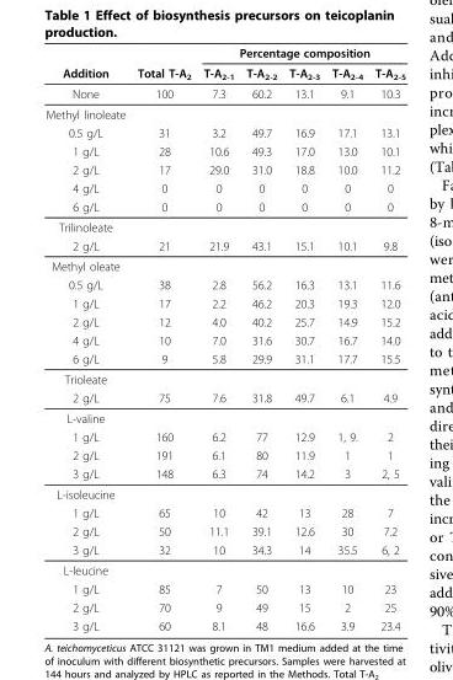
<table><thead><tr><td rowspan="2">Addition</td><td rowspan="2">Total T-A<sub>2</sub></td><td colspan="5">Percentage composition</td></tr><tr><td>T-A<sub>2-1</sub></td><td>T-A<sub>2-2</sub></td><td>T-A<sub>2-3</sub></td><td>T-A<sub>2-4</sub></td><td>T-A<sub>2-5</sub></td></tr></thead><tbody><tr><td>None</td><td>100</td><td>7.3</td><td>60.2</td><td>13.1</td><td>9.1</td><td>10.3</td></tr><tr><td colspan="7">Methyl linoleate</td></tr><tr><td>0.5 g/L</td><td>31</td><td>3.2</td><td>49.7</td><td>16.9</td><td>17.1</td><td>13.1</td></tr><tr><td>1 g/L</td><td>28</td><td>10.6</td><td>49.3</td><td>17.0</td><td>13.0</td><td>10.1</td></tr><tr><td>2 g/L</td><td>17</td><td>29.0</td><td>31.0</td><td>18.8</td><td>10.0</td><td>11.2</td></tr><tr><td>4 g/L</td><td>0</td><td>0</td><td>0</td><td>0</td><td>0</td><td>0</td></tr><tr><td>6 g/L</td><td>0</td><td>0</td><td>0</td><td>0</td><td>0</td><td>0</td></tr><tr><td colspan="7">Trilinoleate</td></tr><tr><td>2 g/L</td><td>21</td><td>21.9</td><td>43.1</td><td>15.1</td><td>10.1</td><td>9.8</td></tr><tr><td colspan="7">Methyl oleate</td></tr><tr><td>0.5 g/L</td><td>38</td><td>2.8</td><td>56.2</td><td>16.3</td><td>13.1</td><td>11.6</td></tr><tr><td>1 g/L</td><td>17</td><td>2.2</td><td>46.2</td><td>20.3</td><td>19.3</td><td>12.0</td></tr><tr><td>2 g/L</td><td>12</td><td>4.0</td><td>40.2</td><td>25.7</td><td>14.9</td><td>15.2</td></tr><tr><td>4 g/L</td><td>10</td><td>7.0</td><td>31.6</td><td>30.7</td><td>16.7</td><td>14.0</td></tr><tr><td>6 g/L</td><td>9</td><td>5.8</td><td>29.9</td><td>31.1</td><td>17.7</td><td>15.5</td></tr><tr><td colspan="7">Trioleate</td></tr><tr><td>2 g/L</td><td>75</td><td>7.6</td><td>31.8</td><td>49.7</td><td>6.1</td><td>4.9</td></tr><tr><td colspan="7">L-valine</td></tr><tr><td>1 g/L</td><td>160</td><td>6.2</td><td>77</td><td>12.9</td><td>1, 9.</td><td>2</td></tr><tr><td>2 g/L</td><td>191</td><td>6.1</td><td>80</td><td>11.9</td><td>1</td><td>1</td></tr><tr><td>3 g/L</td><td>148</td><td>6.3</td><td>74</td><td>14.2</td><td>3</td><td>2, 5</td></tr><tr><td colspan="7">L-isoleucine</td></tr><tr><td>1 g/L</td><td>65</td><td>10</td><td>42</td><td>13</td><td>28</td><td>7</td></tr><tr><td>2 g/L</td><td>50</td><td>11.1</td><td>39.1</td><td>12.6</td><td>30</td><td>7.2</td></tr><tr><td>3 g/L</td><td>32</td><td>10</td><td>34.3</td><td>14</td><td>35.5</td><td>6, 2</td></tr><tr><td colspan="7">L-leucine</td></tr><tr><td>1 g/L</td><td>85</td><td>7</td><td>50</td><td>13</td><td>10</td><td>23</td></tr><tr><td>2 g/L</td><td>70</td><td>9</td><td>49</td><td>15</td><td>2</td><td>25</td></tr><tr><td>3 g/L</td><td>60</td><td>8.1</td><td>48</td><td>16.6</td><td>3.9</td><td>23.4</td></tr></tbody></table>